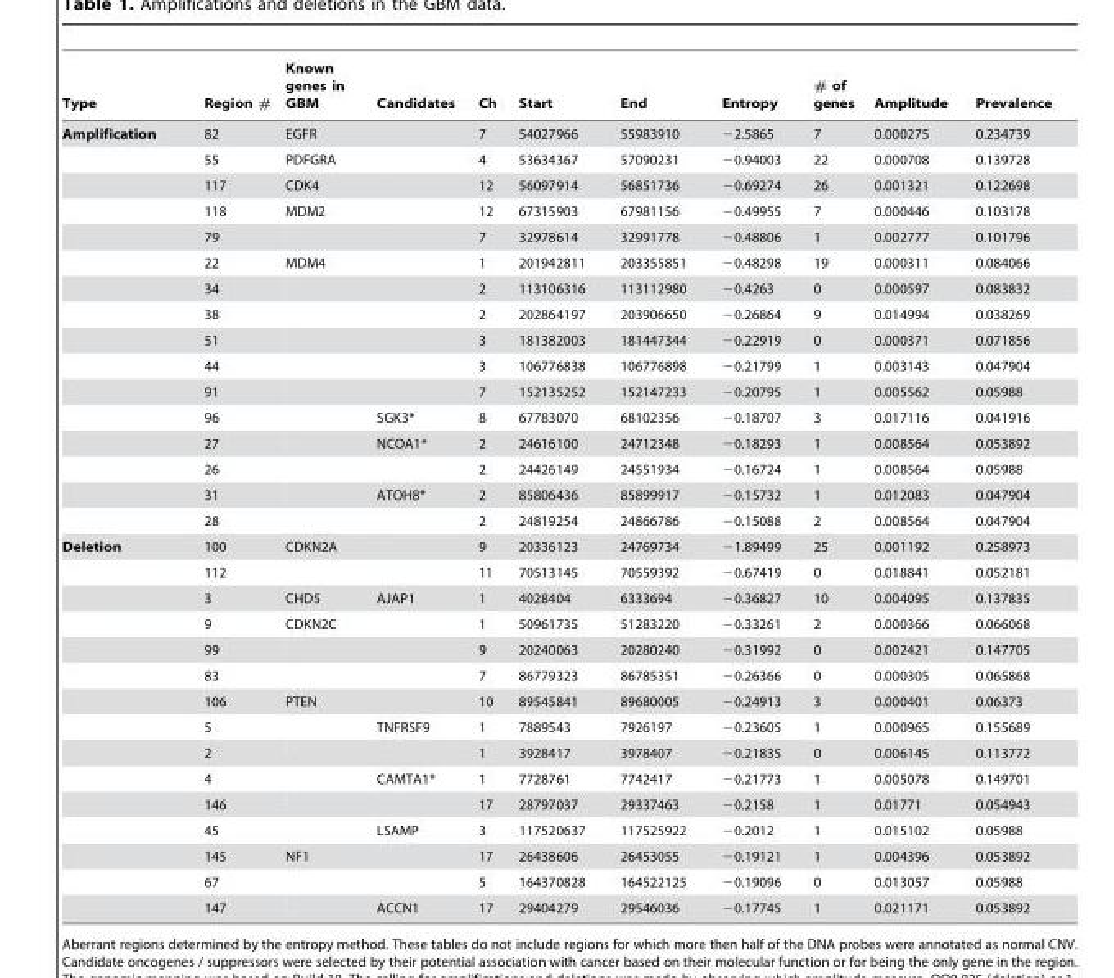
<table><thead><tr><td>Type</td><td>Region #</td><td>Known genes in GBM</td><td>Candidates</td><td>Ch</td><td>Start</td><td>End</td><td>Entropy</td><td># of genes</td><td>Amplitude</td><td>Prevalence</td></tr></thead><tbody><tr><td rowspan="16">Amplification</td><td>82</td><td>EGFR</td><td></td><td>7</td><td>54027966</td><td>55983910</td><td>−2.5865</td><td>7</td><td>0.000275</td><td>0.234739</td></tr><tr><td>55</td><td>PDFGRA</td><td></td><td>4</td><td>53634367</td><td>57090231</td><td>−0.94003</td><td>22</td><td>0.000708</td><td>0.139728</td></tr><tr><td>117</td><td>CDK4</td><td></td><td>12</td><td>56097914</td><td>56851736</td><td>−0.69274</td><td>26</td><td>0.001321</td><td>0.122698</td></tr><tr><td>118</td><td>MDM2</td><td></td><td>12</td><td>67315903</td><td>67981156</td><td>−0.49955</td><td>7</td><td>0.000446</td><td>0.103178</td></tr><tr><td>79</td><td></td><td></td><td>7</td><td>32978614</td><td>32991778</td><td>−0.48806</td><td>1</td><td>0.002777</td><td>0.101796</td></tr><tr><td>22</td><td>MDM4</td><td></td><td>1</td><td>201942811</td><td>203355851</td><td>−0.48298</td><td>19</td><td>0.000311</td><td>0.084066</td></tr><tr><td>34</td><td></td><td></td><td>2</td><td>113106316</td><td>113112980</td><td>−0.4263</td><td>0</td><td>0.000597</td><td>0.083832</td></tr><tr><td>38</td><td></td><td></td><td>2</td><td>202864197</td><td>203906650</td><td>−0.26864</td><td>9</td><td>0.014994</td><td>0.038269</td></tr><tr><td>51</td><td></td><td></td><td>3</td><td>181382003</td><td>181447344</td><td>−0.22919</td><td>0</td><td>0.000371</td><td>0.071856</td></tr><tr><td>44</td><td></td><td></td><td>3</td><td>106776838</td><td>106776898</td><td>−0.21799</td><td>1</td><td>0.003143</td><td>0.047904</td></tr><tr><td>91</td><td></td><td></td><td>7</td><td>152135252</td><td>152147233</td><td>−0.20795</td><td>1</td><td>0.005562</td><td>0.05988</td></tr><tr><td>96</td><td></td><td>SGK3*</td><td>8</td><td>67783070</td><td>68102356</td><td>−0.18707</td><td>3</td><td>0.017116</td><td>0.041916</td></tr><tr><td>27</td><td></td><td>NCOA1*</td><td>2</td><td>24616100</td><td>24712348</td><td>−0.18293</td><td>1</td><td>0.008564</td><td>0.053892</td></tr><tr><td>26</td><td></td><td></td><td>2</td><td>24426149</td><td>24551934</td><td>−0.16724</td><td>1</td><td>0.008564</td><td>0.05988</td></tr><tr><td>31</td><td></td><td>ATOH8*</td><td>2</td><td>85806436</td><td>85899917</td><td>−0.15732</td><td>1</td><td>0.012083</td><td>0.047904</td></tr><tr><td>28</td><td></td><td></td><td>2</td><td>24819254</td><td>24866786</td><td>−0.15088</td><td>2</td><td>0.008564</td><td>0.047904</td></tr><tr><td rowspan="15">Deletion</td><td>100</td><td>CDKN2A</td><td></td><td>9</td><td>20336123</td><td>24769734</td><td>−1.89499</td><td>25</td><td>0.001192</td><td>0.258973</td></tr><tr><td>112</td><td></td><td></td><td>11</td><td>70513145</td><td>70559392</td><td>−0.67419</td><td>0</td><td>0.018841</td><td>0.052181</td></tr><tr><td>3</td><td>CHD5</td><td>AJAP1</td><td>1</td><td>4028404</td><td>6333694</td><td>−0.36827</td><td>10</td><td>0.004095</td><td>0.137835</td></tr><tr><td>9</td><td>CDKN2C</td><td></td><td>1</td><td>50961735</td><td>51283220</td><td>−0.33261</td><td>2</td><td>0.000366</td><td>0.066068</td></tr><tr><td>99</td><td></td><td></td><td>9</td><td>20240063</td><td>20280240</td><td>−0.31992</td><td>0</td><td>0.002421</td><td>0.147705</td></tr><tr><td>83</td><td></td><td></td><td>7</td><td>86779323</td><td>86785351</td><td>−0.26366</td><td>0</td><td>0.000305</td><td>0.065868</td></tr><tr><td>106</td><td>PTEN</td><td></td><td>10</td><td>89545841</td><td>89680005</td><td>−0.24913</td><td>3</td><td>0.000401</td><td>0.06373</td></tr><tr><td>5</td><td></td><td>TNFRSF9</td><td>1</td><td>7889543</td><td>7926197</td><td>−0.23605</td><td>1</td><td>0.000965</td><td>0.155689</td></tr><tr><td>2</td><td></td><td></td><td>1</td><td>3928417</td><td>3978407</td><td>−0.21835</td><td>0</td><td>0.006145</td><td>0.113772</td></tr><tr><td>4</td><td></td><td>CAMTA1*</td><td>1</td><td>7728761</td><td>7742417</td><td>−0.21773</td><td>1</td><td>0.005078</td><td>0.149701</td></tr><tr><td>146</td><td></td><td></td><td>17</td><td>28797037</td><td>29337463</td><td>−0.2158</td><td>1</td><td>0.01771</td><td>0.054943</td></tr><tr><td>45</td><td></td><td>LSAMP</td><td>3</td><td>117520637</td><td>117525922</td><td>−0.2012</td><td>1</td><td>0.015102</td><td>0.05988</td></tr><tr><td>145</td><td>NF1</td><td></td><td>17</td><td>26438606</td><td>26453055</td><td>−0.19121</td><td>1</td><td>0.004396</td><td>0.053892</td></tr><tr><td>67</td><td></td><td></td><td>5</td><td>164370828</td><td>164522125</td><td>−0.19096</td><td>0</td><td>0.013057</td><td>0.05988</td></tr><tr><td>147</td><td></td><td>ACCN1</td><td>17</td><td>29404279</td><td>29546036</td><td>−0.17745</td><td>1</td><td>0.021171</td><td>0.053892</td></tr></tbody></table>